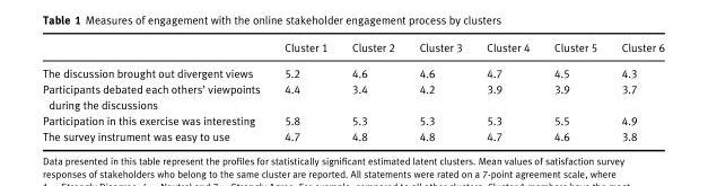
<table><thead><tr><td></td><td>Cluster 1</td><td>Cluster 2</td><td>Cluster 3</td><td>Cluster 4</td><td>Cluster 5</td><td>Cluster 6</td></tr></thead><tbody><tr><td>The discussion brought out divergent views</td><td>5.2</td><td>4.6</td><td>4.6</td><td>4.7</td><td>4.5</td><td>4.3</td></tr><tr><td>Participants debated each others’ viewpoints during the discussions</td><td>4.4</td><td>3.4</td><td>4.2</td><td>3.9</td><td>3.9</td><td>3.7</td></tr><tr><td>Participation in this exercise was interesting</td><td>5.8</td><td>5.3</td><td>5.3</td><td>5.3</td><td>5.5</td><td>4.9</td></tr><tr><td>The survey instrument was easy to use</td><td>4.7</td><td>4.8</td><td>4.8</td><td>4.7</td><td>4.6</td><td>3.8</td></tr></tbody></table>